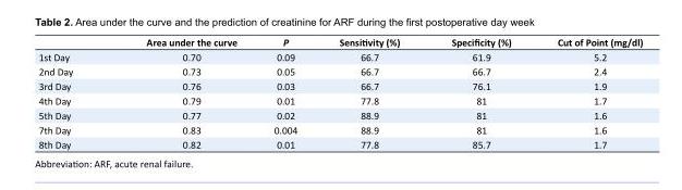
<table><thead><tr><td></td><td>Area under the curve</td><td>P</td><td>Sensitivity (%)</td><td>Specificity (%)</td><td>Cut of Point (mg/dl)</td></tr></thead><tbody><tr><td>1st Day</td><td>0.70</td><td>0.09</td><td>66.7</td><td>61.9</td><td>5.2</td></tr><tr><td>2nd Day</td><td>0.73</td><td>0.05</td><td>66.7</td><td>66.7</td><td>2.4</td></tr><tr><td>3rd Day</td><td>0.76</td><td>0.03</td><td>66.7</td><td>76.1</td><td>1.9</td></tr><tr><td>4th Day</td><td>0.79</td><td>0.01</td><td>77.8</td><td>81</td><td>1.7</td></tr><tr><td>5th Day</td><td>0.77</td><td>0.02</td><td>88.9</td><td>81</td><td>1.6</td></tr><tr><td>7th Day</td><td>0.83</td><td>0.004</td><td>88.9</td><td>81</td><td>1.6</td></tr><tr><td>8th Day</td><td>0.82</td><td>0.01</td><td>77.8</td><td>85.7</td><td>1.7</td></tr></tbody></table>